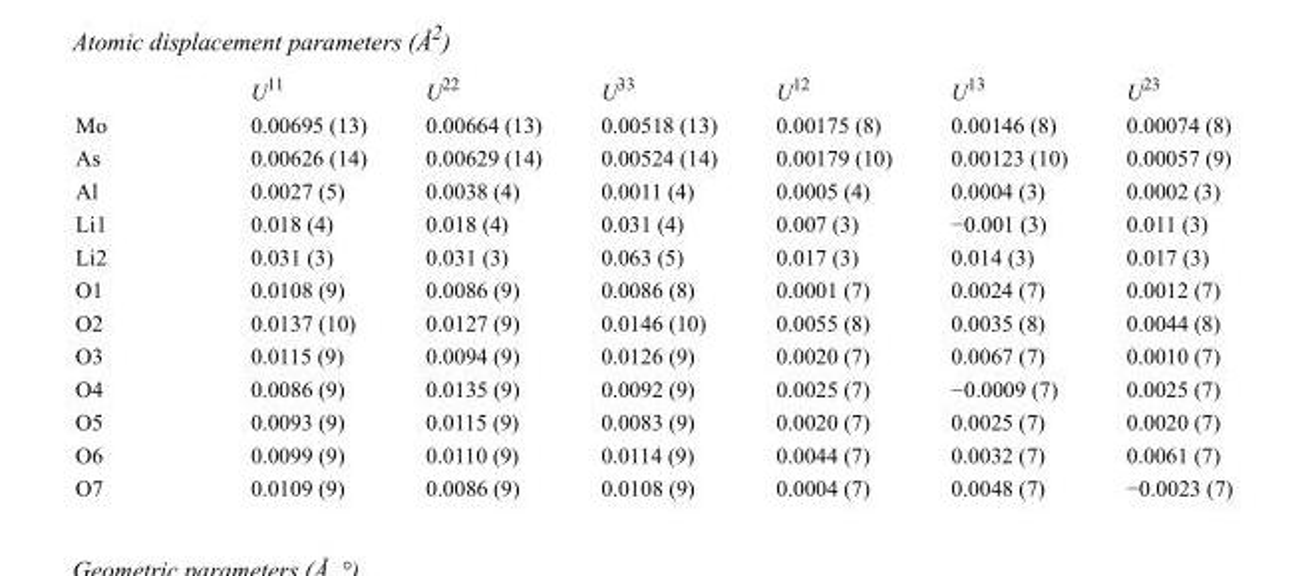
<table><thead><tr><td></td><td>U<sup>11</sup></td><td>U<sup>22</sup></td><td>U<sup>33</sup></td><td>U<sup>12</sup></td><td>U<sup>13</sup></td><td>U<sup>23</sup></td></tr></thead><tbody><tr><td>Mo</td><td>0.00695 (13)</td><td>0.00664 (13)</td><td>0.00518 (13)</td><td>0.00175 (8)</td><td>0.00146 (8)</td><td>0.00074 (8)</td></tr><tr><td>As</td><td>0.00626 (14)</td><td>0.00629 (14)</td><td>0.00524 (14)</td><td>0.00179 (10)</td><td>0.00123 (10)</td><td>0.00057 (9)</td></tr><tr><td>Al</td><td>0.0027 (5)</td><td>0.0038 (4)</td><td>0.0011 (4)</td><td>0.0005 (4)</td><td>0.0004 (3)</td><td>0.0002 (3)</td></tr><tr><td>Li1</td><td>0.018 (4)</td><td>0.018 (4)</td><td>0.031 (4)</td><td>0.007 (3)</td><td>−0.001 (3)</td><td>0.011 (3)</td></tr><tr><td>Li2</td><td>0.031 (3)</td><td>0.031 (3)</td><td>0.063 (5)</td><td>0.017 (3)</td><td>0.014 (3)</td><td>0.017 (3)</td></tr><tr><td>O1</td><td>0.0108 (9)</td><td>0.0086 (9)</td><td>0.0086 (8)</td><td>0.0001 (7)</td><td>0.0024 (7)</td><td>0.0012 (7)</td></tr><tr><td>O2</td><td>0.0137 (10)</td><td>0.0127 (9)</td><td>0.0146 (10)</td><td>0.0055 (8)</td><td>0.0035 (8)</td><td>0.0044 (8)</td></tr><tr><td>O3</td><td>0.0115 (9)</td><td>0.0094 (9)</td><td>0.0126 (9)</td><td>0.0020 (7)</td><td>0.0067 (7)</td><td>0.0010 (7)</td></tr><tr><td>O4</td><td>0.0086 (9)</td><td>0.0135 (9)</td><td>0.0092 (9)</td><td>0.0025 (7)</td><td>−0.0009 (7)</td><td>0.0025 (7)</td></tr><tr><td>O5</td><td>0.0093 (9)</td><td>0.0115 (9)</td><td>0.0083 (9)</td><td>0.0020 (7)</td><td>0.0025 (7)</td><td>0.0020 (7)</td></tr><tr><td>O6</td><td>0.0099 (9)</td><td>0.0110 (9)</td><td>0.0114 (9)</td><td>0.0044 (7)</td><td>0.0032 (7)</td><td>0.0061 (7)</td></tr><tr><td>O7</td><td>0.0109 (9)</td><td>0.0086 (9)</td><td>0.0108 (9)</td><td>0.0004 (7)</td><td>0.0048 (7)</td><td>−0.0023 (7)</td></tr></tbody></table>